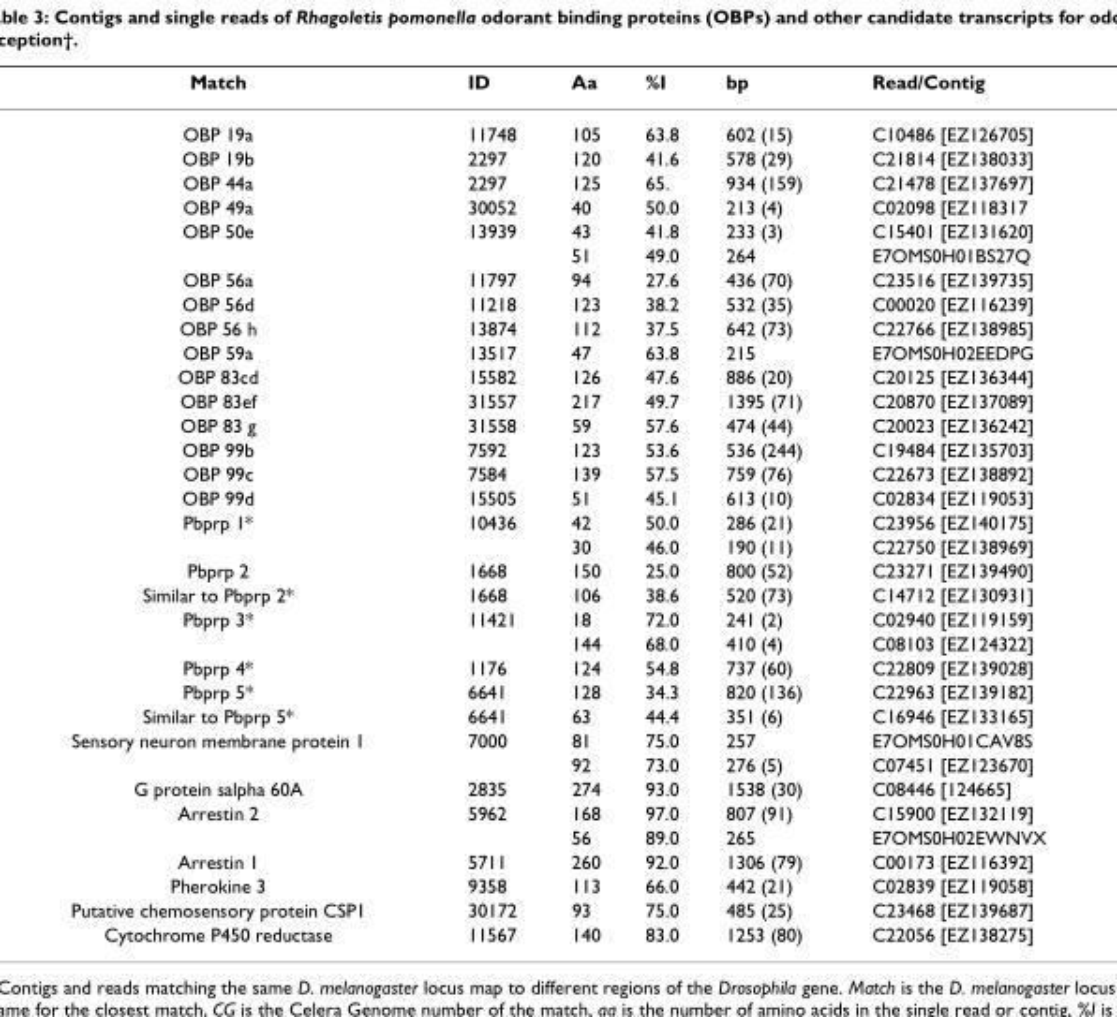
<table><thead><tr><td>Match</td><td>ID</td><td>Aa</td><td>%I</td><td>bp</td><td>Read/Contig</td></tr></thead><tbody><tr><td>OBP 19a</td><td>11748</td><td>105</td><td>63.8</td><td>602 (15)</td><td>C10486 [EZ126705]</td></tr><tr><td>OBP 19b</td><td>2297</td><td>120</td><td>41.6</td><td>578 (29)</td><td>C21814 [EZ138033]</td></tr><tr><td>OBP 44a</td><td>2297</td><td>125</td><td>65.</td><td>934 (159)</td><td>C21478 [EZ137697]</td></tr><tr><td>OBP 49a</td><td>30052</td><td>40</td><td>50.0</td><td>213 (4)</td><td>C02098 [EZ118317</td></tr><tr><td rowspan="2">OBP 50e</td><td>13939</td><td>43</td><td>41.8</td><td>233 (3)</td><td>C15401 [EZ131620]</td></tr><tr><td></td><td>51</td><td>49.0</td><td>264</td><td>E7OMS0H01BS27Q</td></tr><tr><td>OBP 56a</td><td>11797</td><td>94</td><td>27.6</td><td>436 (70)</td><td>C23516 [EZ139735]</td></tr><tr><td>OBP 56d</td><td>11218</td><td>123</td><td>38.2</td><td>532 (35)</td><td>C00020 [EZ116239]</td></tr><tr><td>OBP 56 h</td><td>13874</td><td>112</td><td>37.5</td><td>642 (73)</td><td>C22766 [EZ138985]</td></tr><tr><td>OBP 59a</td><td>13517</td><td>47</td><td>63.8</td><td>215</td><td>E7OMS0H02EEDPG</td></tr><tr><td>OBP 83cd</td><td>15582</td><td>126</td><td>47.6</td><td>886 (20)</td><td>C20125 [EZ136344]</td></tr><tr><td>OBP 83ef</td><td>31557</td><td>217</td><td>49.7</td><td>1395 (71)</td><td>C20870 [EZ137089]</td></tr><tr><td>OBP 83 g</td><td>31558</td><td>59</td><td>57.6</td><td>474 (44)</td><td>C20023 [EZ136242]</td></tr><tr><td>OBP 99b</td><td>7592</td><td>123</td><td>53.6</td><td>536 (244)</td><td>C19484 [EZ135703]</td></tr><tr><td>OBP 99c</td><td>7584</td><td>139</td><td>57.5</td><td>759 (76)</td><td>C22673 [EZ138892]</td></tr><tr><td>OBP 99d</td><td>15505</td><td>51</td><td>45.1</td><td>613 (10)</td><td>C02834 [EZ119053]</td></tr><tr><td rowspan="2">Pbprp 1*</td><td>10436</td><td>42</td><td>50.0</td><td>286 (21)</td><td>C23956 [EZ140175]</td></tr><tr><td></td><td>30</td><td>46.0</td><td>190 (11)</td><td>C22750 [EZ138969]</td></tr><tr><td>Pbprp 2</td><td>1668</td><td>150</td><td>25.0</td><td>800 (52)</td><td>C23271 [EZ139490]</td></tr><tr><td>Similar to Pbprp 2*</td><td>1668</td><td>106</td><td>38.6</td><td>520 (73)</td><td>C14712 [EZ130931]</td></tr><tr><td rowspan="2">Pbprp 3*</td><td>11421</td><td>18</td><td>72.0</td><td>241 (2)</td><td>C02940 [EZ119159]</td></tr><tr><td></td><td>144</td><td>68.0</td><td>410 (4)</td><td>C08103 [EZ124322]</td></tr><tr><td>Pbprp 4*</td><td>1176</td><td>124</td><td>54.8</td><td>737 (60)</td><td>C22809 [EZ139028]</td></tr><tr><td>Pbprp 5*</td><td>6641</td><td>128</td><td>34.3</td><td>820 (136)</td><td>C22963 [EZ139182]</td></tr><tr><td>Similar to Pbprp 5*</td><td>6641</td><td>63</td><td>44.4</td><td>351 (6)</td><td>C16946 [EZ133165]</td></tr><tr><td rowspan="2">Sensory neuron membrane protein 1</td><td>7000</td><td>81</td><td>75.0</td><td>257</td><td>E7OMS0H01CAV8S</td></tr><tr><td></td><td>92</td><td>73.0</td><td>276 (5)</td><td>C07451 [EZ123670]</td></tr><tr><td>G protein salpha 60A</td><td>2835</td><td>274</td><td>93.0</td><td>1538 (30)</td><td>C08446 [124665]</td></tr><tr><td rowspan="2">Arrestin 2</td><td>5962</td><td>168</td><td>97.0</td><td>807 (91)</td><td>C15900 [EZ132119]</td></tr><tr><td></td><td>56</td><td>89.0</td><td>265</td><td>E7OMS0H02EWNVX</td></tr><tr><td>Arrestin 1</td><td>5711</td><td>260</td><td>92.0</td><td>1306 (79)</td><td>C00173 [EZ116392]</td></tr><tr><td>Pherokine 3</td><td>9358</td><td>113</td><td>66.0</td><td>442 (21)</td><td>C02839 [EZ119058]</td></tr><tr><td>Putative chemosensory protein CSP1</td><td>30172</td><td>93</td><td>75.0</td><td>485 (25)</td><td>C23468 [EZ139687]</td></tr><tr><td>Cytochrome P450 reductase</td><td>11567</td><td>140</td><td>83.0</td><td>1253 (80)</td><td>C22056 [EZ138275]</td></tr></tbody></table>